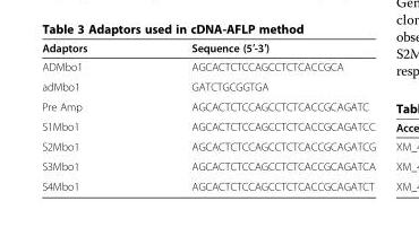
<table><thead><tr><td>Adaptors</td><td>Sequence (5′-3′)</td></tr></thead><tbody><tr><td>ADMbo1</td><td>AGCACTCTCCAGCCTCTCACCGCA</td></tr><tr><td>adMbo1</td><td>GATCTGCGGTGA</td></tr><tr><td>Pre Amp</td><td>AGCACTCTCCAGCCTCTCACCGCAGATC</td></tr><tr><td>S1Mbo1</td><td>AGCACTCTCCAGCCTCTCACCGCAGATCC</td></tr><tr><td>S2Mbo1</td><td>AGCACTCTCCAGCCTCTCACCGCAGATCG</td></tr><tr><td>S3Mbo1</td><td>AGCACTCTCCAGCCTCTCACCGCAGATCA</td></tr><tr><td>S4Mbo1</td><td>AGCACTCTCCAGCCTCTCACCGCAGATCT</td></tr></tbody></table>